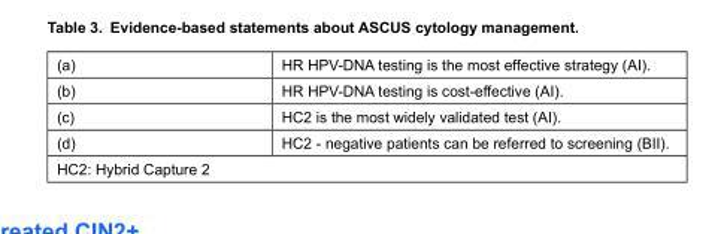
<table><tbody><tr><td>(a)</td><td>HR HPV-DNA testing is the most effective strategy (AI).</td></tr><tr><td>(b)</td><td>HR HPV-DNA testing is cost-effective (AI).</td></tr><tr><td>(c)</td><td>HC2 is the most widely validated test (AI).</td></tr><tr><td>(d)</td><td>HC2 - negative patients can be referred to screening (BII).</td></tr><tr><td colspan="2">HC2: Hybrid Capture 2</td></tr></tbody></table>